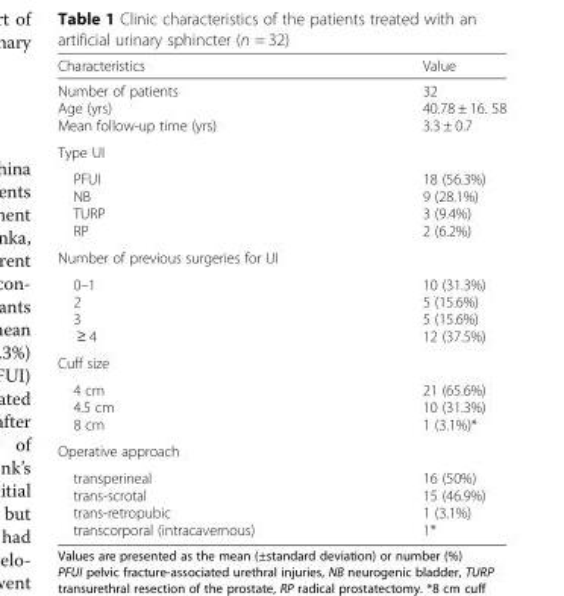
<table><thead><tr><td>Characteristics</td><td>Value</td></tr></thead><tbody><tr><td>Number of patients Age (yrs) Mean follow-up time (yrs)</td><td>32 40.78 ± 16. 58 3.3 ± 0.7</td></tr><tr><td colspan="2">Type UI</td></tr><tr><td>PFUI NB TURP RP</td><td>18 (56.3%) 9 (28.1%) 3 (9.4%) 2 (6.2%)</td></tr><tr><td colspan="2">Number of previous surgeries for UI</td></tr><tr><td>0–1 2 3 ≥ 4</td><td>10 (31.3%) 5 (15.6%) 5 (15.6%) 12 (37.5%)</td></tr><tr><td colspan="2">Cuff size</td></tr><tr><td>4 cm 4.5 cm 8 cm</td><td>21 (65.6%) 10 (31.3%) 1 (3.1%)*</td></tr><tr><td colspan="2">Operative approach</td></tr><tr><td>transperineal trans-scrotal trans-retropubic transcorporal (intracavernous)</td><td>16 (50%) 15 (46.9%) 1 (3.1%) 1*</td></tr></tbody></table>